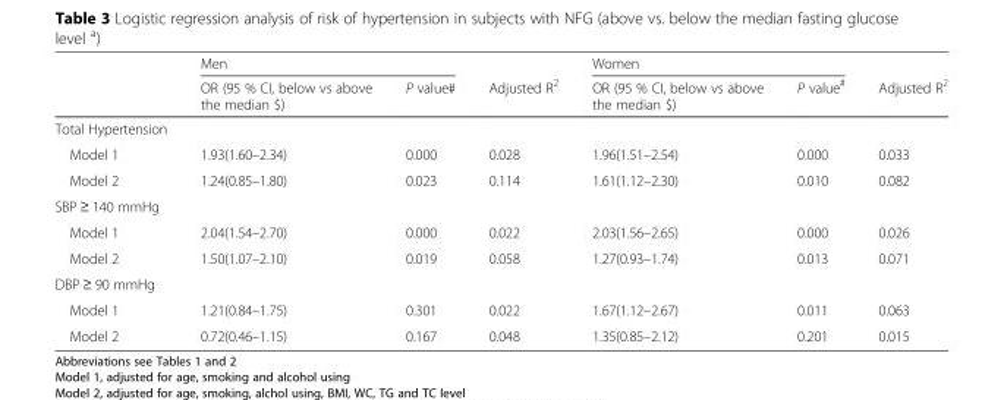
<table><thead><tr><td rowspan="2"></td><td colspan="2">Men</td><td rowspan="2">Adjusted R<sup>2</sup></td><td colspan="2">Women</td><td rowspan="2">Adjusted R<sup>2</sup></td></tr><tr><td>OR (95 % CI, below vs above the median $)</td><td>P value#</td><td>OR (95 % CI, below vs above the median $)</td><td>P value#</td></tr></thead><tbody><tr><td colspan="7">Total Hypertension</td></tr><tr><td>Model 1</td><td>1.93(1.60–2.34)</td><td>0.000</td><td>0.028</td><td>1.96(1.51–2.54)</td><td>0.000</td><td>0.033</td></tr><tr><td>Model 2</td><td>1.24(0.85–1.80)</td><td>0.023</td><td>0.114</td><td>1.61(1.12–2.30)</td><td>0.010</td><td>0.082</td></tr><tr><td colspan="7">SBP ≥ 140 mmHg</td></tr><tr><td>Model 1</td><td>2.04(1.54–2.70)</td><td>0.000</td><td>0.022</td><td>2.03(1.56–2.65)</td><td>0.000</td><td>0.026</td></tr><tr><td>Model 2</td><td>1.50(1.07–2.10)</td><td>0.019</td><td>0.058</td><td>1.27(0.93–1.74)</td><td>0.013</td><td>0.071</td></tr><tr><td colspan="7">DBP ≥ 90 mmHg</td></tr><tr><td>Model 1</td><td>1.21(0.84–1.75)</td><td>0.301</td><td>0.022</td><td>1.67(1.12–2.67)</td><td>0.011</td><td>0.063</td></tr><tr><td>Model 2</td><td>0.72(0.46–1.15)</td><td>0.167</td><td>0.048</td><td>1.35(0.85–2.12)</td><td>0.201</td><td>0.015</td></tr></tbody></table>